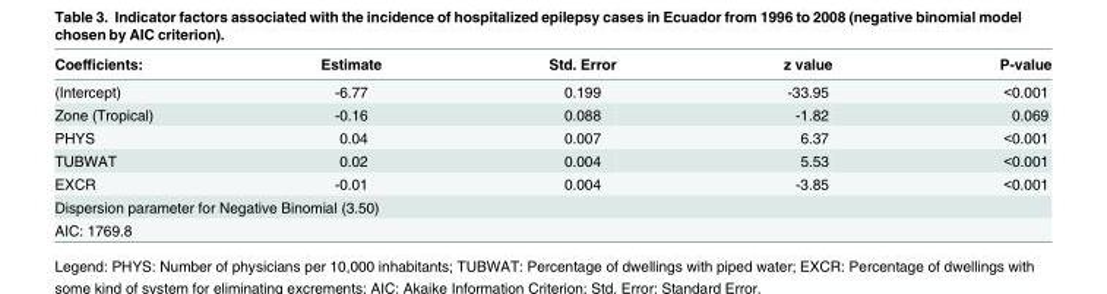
<table><thead><tr><td>Coefficients:</td><td>Estimate</td><td>Std. Error</td><td>z value</td><td>P-value</td></tr></thead><tbody><tr><td>(Intercept)</td><td>-6.77</td><td>0.199</td><td>-33.95</td><td>&lt;0.001</td></tr><tr><td>Zone (Tropical)</td><td>-0.16</td><td>0.088</td><td>-1.82</td><td>0.069</td></tr><tr><td>PHYS</td><td>0.04</td><td>0.007</td><td>6.37</td><td>&lt;0.001</td></tr><tr><td>TUBWAT</td><td>0.02</td><td>0.004</td><td>5.53</td><td>&lt;0.001</td></tr><tr><td>EXCR</td><td>-0.01</td><td>0.004</td><td>-3.85</td><td>&lt;0.001</td></tr><tr><td colspan="5">Dispersion parameter for Negative Binomial (3.50)</td></tr><tr><td>AIC: 1769.8</td><td></td><td></td><td></td><td></td></tr></tbody></table>